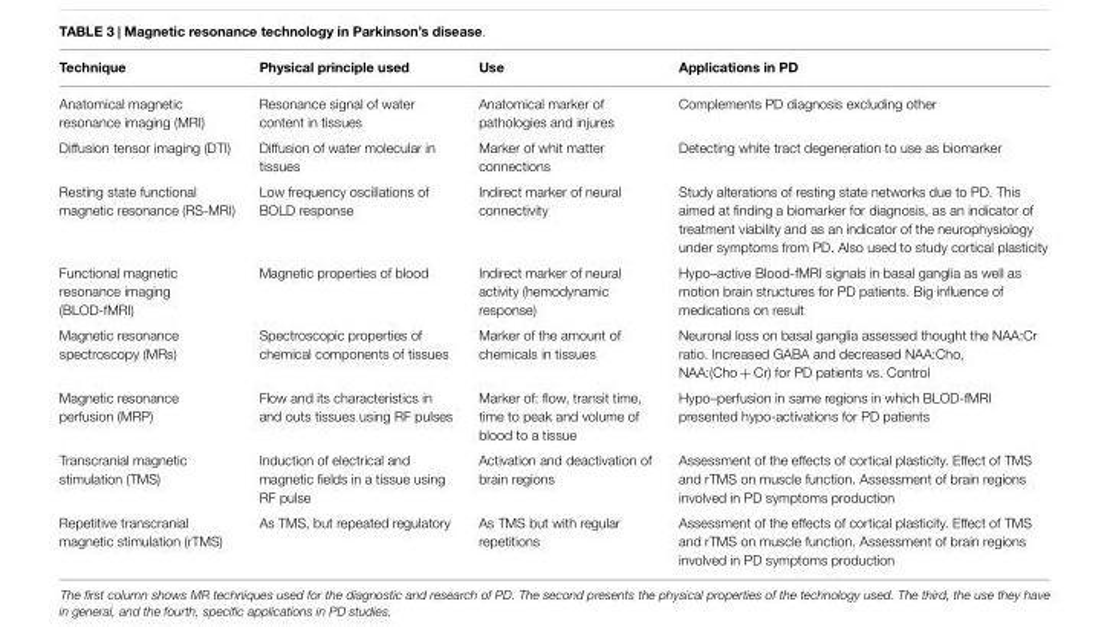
<table><thead><tr><td>Technique</td><td>Physical principle used</td><td>Use</td><td>Applications in PD</td></tr></thead><tbody><tr><td>Anatomical magnetic resonance imaging (MRI)</td><td>Resonance signal of water content in tissues</td><td>Anatomical marker of pathologies and injures</td><td>Complements PD diagnosis excluding other</td></tr><tr><td>Diffusion tensor imaging (DTI)</td><td>Diffusion of water molecular in tissues</td><td>Marker of whit matter connections</td><td>Detecting white tract degeneration to use as biomarker</td></tr><tr><td>Resting state functional magnetic resonance (RS-MRI)</td><td>Low frequency oscillations of BOLD response</td><td>Indirect marker of neural connectivity</td><td>Study alterations of resting state networks due to PD. This aimed at finding a biomarker for diagnosis, as an indicator of treatment viability and as an indicator of the neurophysiology under symptoms from PD. Also used to study cortical plasticity</td></tr><tr><td>Functional magnetic resonance imaging (BLOD-fMRI)</td><td>Magnetic properties of blood</td><td>Indirect marker of neural activity (hemodynamic response)</td><td>Hypo–active Blood-fMRI signals in basal ganglia as well as motion brain structures for PD patients. Big influence of medications on result</td></tr><tr><td>Magnetic resonance spectroscopy (MRs)</td><td>Spectroscopic properties of chemical components of tissues</td><td>Marker of the amount of chemicals in tissues</td><td>Neuronal loss on basal ganglia assessed thought the NAA:Cr ratio. Increased GABA and decreased NAA:Cho, NAA:(Cho + Cr) for PD patients vs. Control</td></tr><tr><td>Magnetic resonance perfusion (MRP)</td><td>Flow and its characteristics in and outs tissues using RF pulses</td><td>Marker of: flow, transit time, time to peak and volume of blood to a tissue</td><td>Hypo–perfusion in same regions in which BLOD-fMRI presented hypo-activations for PD patients</td></tr><tr><td>Transcranial magnetic stimulation (TMS)</td><td>Induction of electrical and magnetic fields in a tissue using RF pulse</td><td>Activation and deactivation of brain regions</td><td>Assessment of the effects of cortical plasticity. Effect of TMS and rTMS on muscle function. Assessment of brain regions involved in PD symptoms production</td></tr><tr><td>Repetitive transcranial magnetic stimulation (rTMS)</td><td>As TMS, but repeated regulatory</td><td>As TMS but with regular repetitions</td><td>Assessment of the effects of cortical plasticity. Effect of TMS and rTMS on muscle function. Assessment of brain regions involved in PD symptoms production</td></tr></tbody></table>